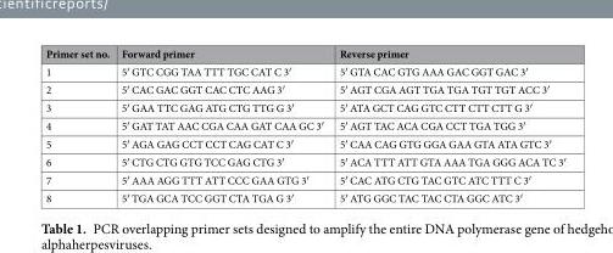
<table><thead><tr><td>Primer set no.</td><td>Forward primer</td><td>Reverse primer</td></tr></thead><tbody><tr><td>1</td><td>5′ GTC CGG TAA TTT TGC CAT C 3′</td><td>5′ GTA CAC GTG AAA GAC GGT GAC 3′</td></tr><tr><td>2</td><td>5′ CAC GAC GGT CAC CTC AAG 3′</td><td>5′ AGT CGA AGT TGA TGA TGT TGT ACC 3′</td></tr><tr><td>3</td><td>5′ GAA TTC GAG ATG CTG TTG G 3′</td><td>5′ ATA GCT CAG GTC CTT CTT CTT G 3′</td></tr><tr><td>4</td><td>5′ GAT TAT AAC CGA CAA GAT CAA GC 3′</td><td>5′ AGT TAC ACA CGA CCT TGA TGG 3′</td></tr><tr><td>5</td><td>5′ AGA GAG CCT CCT CAG CAT C 3′</td><td>5′ CAA CAG GTG GGA GAA GTA ATA GTC 3′</td></tr><tr><td>6</td><td>5′ CTG CTG GTG TCC GAG CTG 3′</td><td>5′ ACA TTT ATT GTA AAA TGA GGG ACA TC 3′</td></tr><tr><td>7</td><td>5′ AAA AGG TTT ATT CCC GAA GTG 3′</td><td>5′ CAC ATG CTG TAC GTC ATC TTT C 3′</td></tr><tr><td>8</td><td>5′ TGA GCA TCC GGT CTA TGA G 3′</td><td>5′ ATG GGC TAC TAC CTA GGC ATC 3′</td></tr></tbody></table>